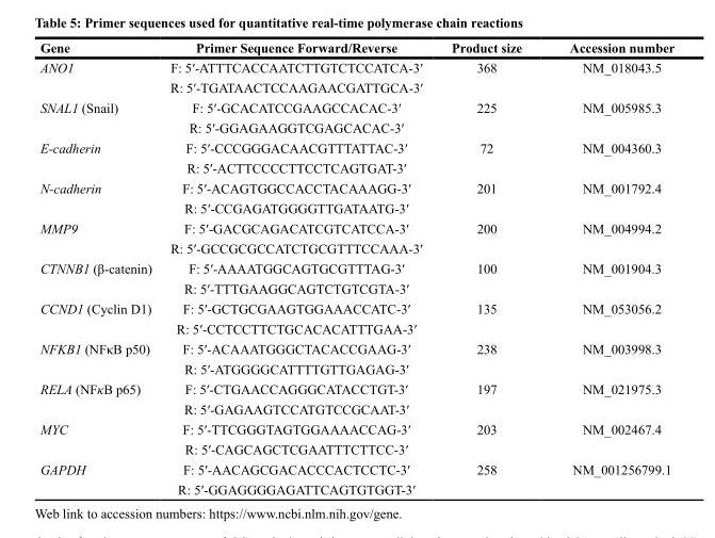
<table><thead><tr><td>Gene</td><td>Primer Sequence Forward/Reverse</td><td>Product size</td><td>Accession number</td></tr></thead><tbody><tr><td rowspan="2">ANO1</td><td>F: 5ʹ-ATTTCACCAATCTTGTCTCCATCA-3ʹ</td><td>368</td><td>NM_018043.5</td></tr><tr><td>R: 5ʹ-TGATAACTCCAAGAACGATTGCA-3ʹ</td><td></td><td></td></tr><tr><td rowspan="2">SNAL1 (Snail)</td><td>F: 5ʹ-GCACATCCGAAGCCACAC-3ʹ</td><td>225</td><td>NM_005985.3</td></tr><tr><td>R: 5ʹ-GGAGAAGGTCGAGCACAC-3ʹ</td><td></td><td></td></tr><tr><td rowspan="2">E-cadherin</td><td>F: 5ʹ-CCCGGGACAACGTTTATTAC-3ʹ</td><td>72</td><td>NM_004360.3</td></tr><tr><td>R: 5ʹ-ACTTCCCCTTCCTCAGTGAT-3ʹ</td><td></td><td></td></tr><tr><td rowspan="2">N-cadherin</td><td>F: 5ʹ-ACAGTGGCCACCTACAAAGG-3ʹ</td><td>201</td><td>NM_001792.4</td></tr><tr><td>R: 5ʹ-CCGAGATGGGGTTGATAATG-3ʹ</td><td></td><td></td></tr><tr><td rowspan="2">MMP9</td><td>F: 5ʹ-GACGCAGACATCGTCATCCA-3ʹ</td><td>200</td><td>NM_004994.2</td></tr><tr><td>R: 5ʹ-GCCGCGCCATCTGCGTTTCCAAA-3ʹ</td><td></td><td></td></tr><tr><td rowspan="2">CTNNB1 (β-catenin)</td><td>F: 5ʹ-AAAATGGCAGTGCGTTTAG-3ʹ</td><td>100</td><td>NM_001904.3</td></tr><tr><td>R: 5ʹ-TTTGAAGGCAGTCTGTCGTA-3ʹ</td><td></td><td></td></tr><tr><td rowspan="2">CCND1 (Cyclin D1)</td><td>F: 5ʹ-GCTGCGAAGTGGAAACCATC-3ʹ</td><td>135</td><td>NM_053056.2</td></tr><tr><td>R: 5ʹ-CCTCCTTCTGCACACATTTGAA-3ʹ</td><td></td><td></td></tr><tr><td rowspan="2">NFKB1 (NFκB p50)</td><td>F: 5ʹ-ACAAATGGGCTACACCGAAG-3ʹ</td><td>238</td><td>NM_003998.3</td></tr><tr><td>R: 5ʹ-ATGGGGCATTTTGTTGAGAG-3ʹ</td><td></td><td></td></tr><tr><td rowspan="2">RELA (NFκB p65)</td><td>F: 5ʹ-CTGAACCAGGGCATACCTGT-3ʹ</td><td>197</td><td>NM_021975.3</td></tr><tr><td>R: 5ʹ-GAGAAGTCCATGTCCGCAAT-3ʹ</td><td></td><td></td></tr><tr><td rowspan="2">MYC</td><td>F: 5ʹ-TTCGGGTAGTGGAAAACCAG-3ʹ</td><td>203</td><td>NM_002467.4</td></tr><tr><td>R: 5ʹ-CAGCAGCTCGAATTTCTTCC-3ʹ</td><td></td><td></td></tr><tr><td rowspan="2">GAPDH</td><td>F: 5ʹ-AACAGCGACACCCACTCCTC-3ʹ</td><td>258</td><td>NM_001256799.1</td></tr><tr><td>R: 5ʹ-GGAGGGGAGATTCAGTGTGGT-3ʹ</td><td></td><td></td></tr></tbody></table>